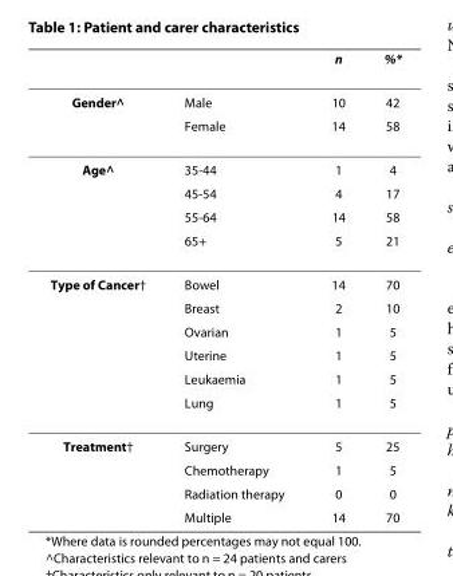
<table><thead><tr><td></td><td></td><td>n</td><td>%*</td></tr></thead><tbody><tr><td rowspan="2">Gender^</td><td>Male</td><td>10</td><td>42</td></tr><tr><td>Female</td><td>14</td><td>58</td></tr><tr><td rowspan="4">Age^</td><td>35-44</td><td>1</td><td>4</td></tr><tr><td>45-54</td><td>4</td><td>17</td></tr><tr><td>55-64</td><td>14</td><td>58</td></tr><tr><td>65+</td><td>5</td><td>21</td></tr><tr><td rowspan="6">Type of Cancer†</td><td>Bowel</td><td>14</td><td>70</td></tr><tr><td>Breast</td><td>2</td><td>10</td></tr><tr><td>Ovarian</td><td>1</td><td>5</td></tr><tr><td>Uterine</td><td>1</td><td>5</td></tr><tr><td>Leukaemia</td><td>1</td><td>5</td></tr><tr><td>Lung</td><td>1</td><td>5</td></tr><tr><td rowspan="4">Treatment†</td><td>Surgery</td><td>5</td><td>25</td></tr><tr><td>Chemotherapy</td><td>1</td><td>5</td></tr><tr><td>Radiation therapy</td><td>0</td><td>0</td></tr><tr><td>Multiple</td><td>14</td><td>70</td></tr></tbody></table>